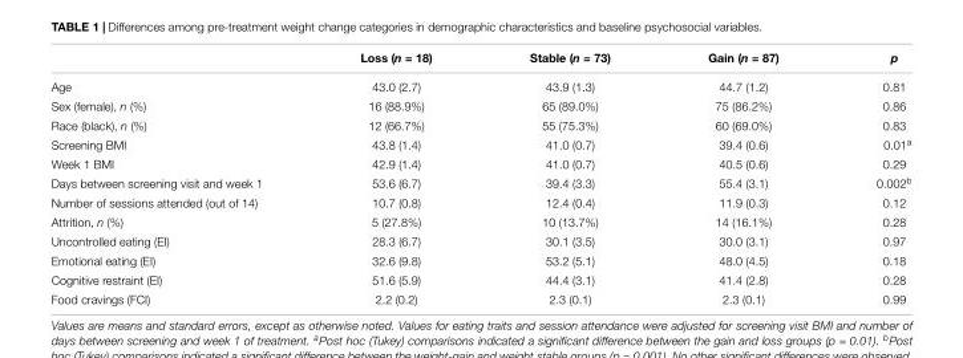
<table><thead><tr><td></td><td>Loss (n = 18)</td><td>Stable (n = 73)</td><td>Gain (n = 87)</td><td>p</td></tr></thead><tbody><tr><td>Age</td><td>43.0 (2.7)</td><td>43.9 (1.3)</td><td>44.7 (1.2)</td><td>0.81</td></tr><tr><td>Sex (female), n (%)</td><td>16 (88.9%)</td><td>65 (89.0%)</td><td>75 (86.2%)</td><td>0.86</td></tr><tr><td>Race (black), n (%)</td><td>12 (66.7%)</td><td>55 (75.3%)</td><td>60 (69.0%)</td><td>0.83</td></tr><tr><td>Screening BMI</td><td>43.8 (1.4)</td><td>41.0 (0.7)</td><td>39.4 (0.6)</td><td>0.01<sup>a</sup></td></tr><tr><td>Week 1 BMI</td><td>42.9 (1.4)</td><td>41.0 (0.7)</td><td>40.5 (0.6)</td><td>0.29</td></tr><tr><td>Days between screening visit and week 1</td><td>53.6 (6.7)</td><td>39.4 (3.3)</td><td>55.4 (3.1)</td><td>0.002<sup>b</sup></td></tr><tr><td>Number of sessions attended (out of 14)</td><td>10.7 (0.8)</td><td>12.4 (0.4)</td><td>11.9 (0.3)</td><td>0.12</td></tr><tr><td>Attrition, n (%)</td><td>5 (27.8%)</td><td>10 (13.7%)</td><td>14 (16.1%)</td><td>0.28</td></tr><tr><td>Uncontrolled eating (EI)</td><td>28.3 (6.7)</td><td>30.1 (3.5)</td><td>30.0 (3.1)</td><td>0.97</td></tr><tr><td>Emotional eating (EI)</td><td>32.6 (9.8)</td><td>53.2 (5.1)</td><td>48.0 (4.5)</td><td>0.18</td></tr><tr><td>Cognitive restraint (EI)</td><td>51.6 (5.9)</td><td>44.4 (3.1)</td><td>41.4 (2.8)</td><td>0.28</td></tr><tr><td>Food cravings (FCI)</td><td>2.2 (0.2)</td><td>2.3 (0.1)</td><td>2.3 (0.1)</td><td>0.99</td></tr></tbody></table>